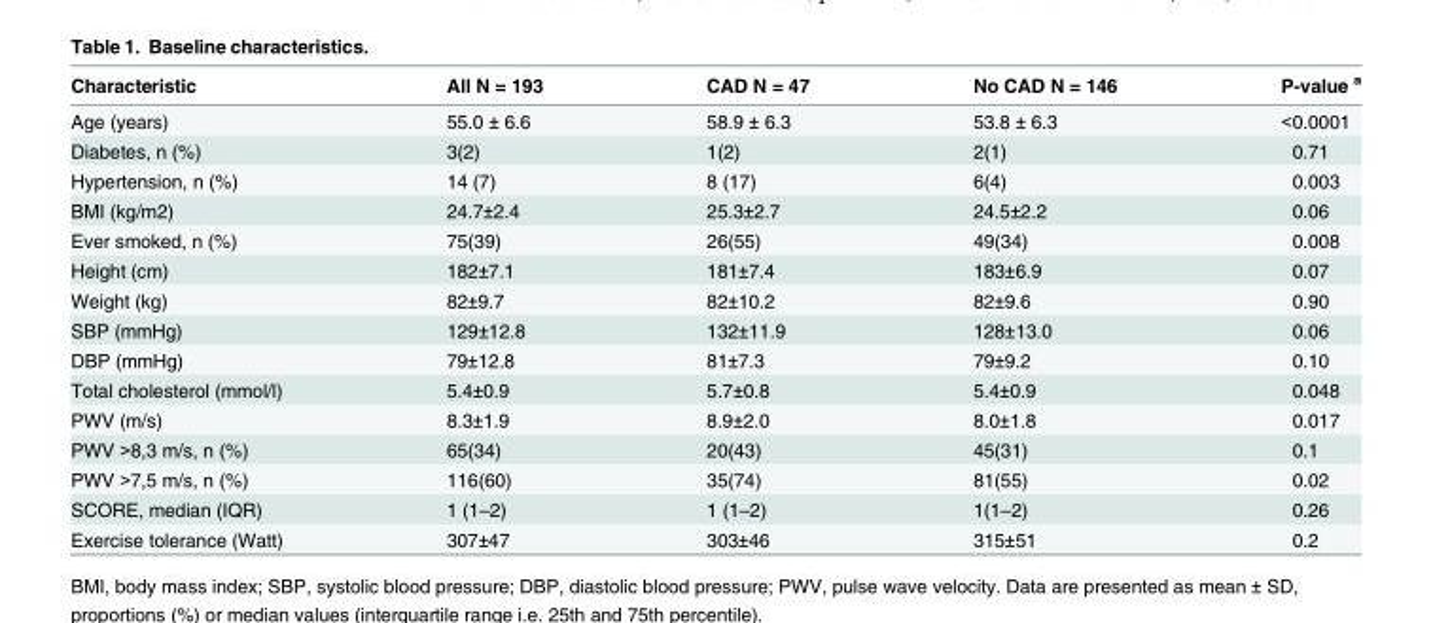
<table><thead><tr><td>Characteristic</td><td>All N = 193</td><td>CAD N = 47</td><td>No CAD N = 146</td><td>P-value <sup>a</sup></td></tr></thead><tbody><tr><td>Age (years)</td><td>55.0 ± 6.6</td><td>58.9 ± 6.3</td><td>53.8 ± 6.3</td><td>&lt;0.0001</td></tr><tr><td>Diabetes, n (%)</td><td>3(2)</td><td>1(2)</td><td>2(1)</td><td>0.71</td></tr><tr><td>Hypertension, n (%)</td><td>14 (7)</td><td>8 (17)</td><td>6(4)</td><td>0.003</td></tr><tr><td>BMI (kg/m2)</td><td>24.7±2.4</td><td>25.3±2.7</td><td>24.5±2.2</td><td>0.06</td></tr><tr><td>Ever smoked, n (%)</td><td>75(39)</td><td>26(55)</td><td>49(34)</td><td>0.008</td></tr><tr><td>Height (cm)</td><td>182±7.1</td><td>181±7.4</td><td>183±6.9</td><td>0.07</td></tr><tr><td>Weight (kg)</td><td>82±9.7</td><td>82±10.2</td><td>82±9.6</td><td>0.90</td></tr><tr><td>SBP (mmHg)</td><td>129±12.8</td><td>132±11.9</td><td>128±13.0</td><td>0.06</td></tr><tr><td>DBP (mmHg)</td><td>79±12.8</td><td>81±7.3</td><td>79±9.2</td><td>0.10</td></tr><tr><td>Total cholesterol (mmol/l)</td><td>5.4±0.9</td><td>5.7±0.8</td><td>5.4±0.9</td><td>0.048</td></tr><tr><td>PWV (m/s)</td><td>8.3±1.9</td><td>8.9±2.0</td><td>8.0±1.8</td><td>0.017</td></tr><tr><td>PWV &gt;8,3 m/s, n (%)</td><td>65(34)</td><td>20(43)</td><td>45(31)</td><td>0.1</td></tr><tr><td>PWV &gt;7,5 m/s, n (%)</td><td>116(60)</td><td>35(74)</td><td>81(55)</td><td>0.02</td></tr><tr><td>SCORE, median (IQR)</td><td>1 (1–2)</td><td>1 (1–2)</td><td>1(1–2)</td><td>0.26</td></tr><tr><td>Exercise tolerance (Watt)</td><td>307±47</td><td>303±46</td><td>315±51</td><td>0.2</td></tr></tbody></table>